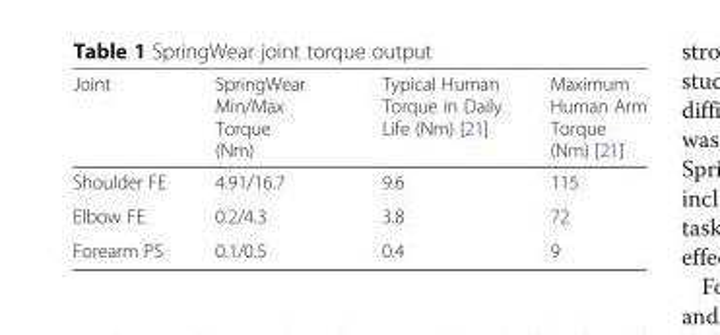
<table><thead><tr><td>Joint</td><td>SpringWear Min/Max Torque (Nm)</td><td>Typical Human Torque in Daily Life (Nm) [21]</td><td>Maximum Human Arm Torque (Nm) [21]</td></tr></thead><tbody><tr><td>Shoulder FE</td><td>4.91/16.7</td><td>9.6</td><td>115</td></tr><tr><td>Elbow FE</td><td>0.2/4.3</td><td>3.8</td><td>72</td></tr><tr><td>Forearm PS</td><td>0.1/0.5</td><td>0.4</td><td>9</td></tr></tbody></table>